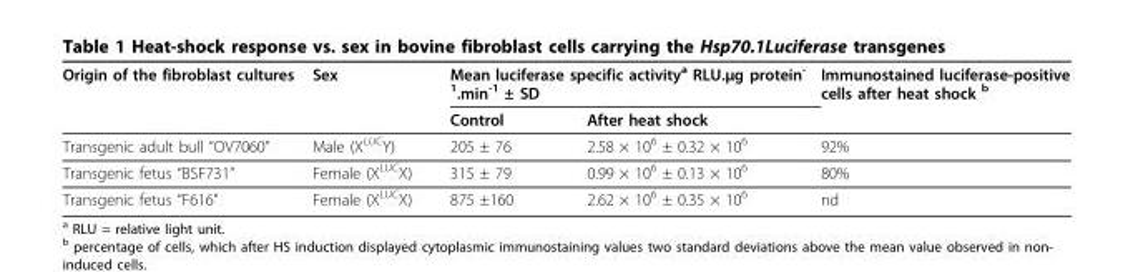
<table><thead><tr><td rowspan="2">Origin of the fibroblast cultures</td><td rowspan="2">Sex</td><td colspan="2">Mean luciferase specific activity<sup>a</sup> RLU.μg protein<sup>- 1</sup>.min<sup>-1</sup> ± SD</td><td rowspan="2">Immunostained luciferase-positive cells after heat shock <sup>b</sup></td></tr><tr><td>Control</td><td>After heat shock</td></tr></thead><tbody><tr><td>Transgenic adult bull “OV7060”</td><td>Male (X<sup>LUC</sup>Y)</td><td>205 ± 76</td><td>2.58 × 10<sup>6</sup> ± 0.32 × 10<sup>6</sup></td><td>92%</td></tr><tr><td>Transgenic fetus “BSF731”</td><td>Female (X<sup>LUC</sup>X)</td><td>315 ± 79</td><td>0.99 × 10<sup>6</sup> ± 0.13 × 10<sup>6</sup></td><td>80%</td></tr><tr><td>Transgenic fetus “F616”</td><td>Female (X<sup>LUC</sup>X)</td><td>875 ±160</td><td>2.62 × 10<sup>6</sup> ± 0.35 × 10<sup>6</sup></td><td>nd</td></tr></tbody></table>